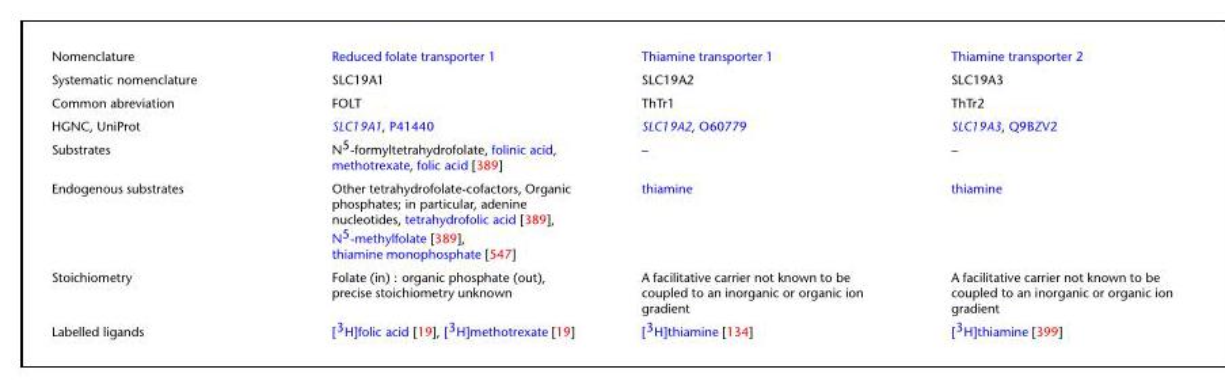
<table><tbody><tr><td>Nomenclature</td><td>Reduced folate transporter 1</td><td>Thiamine transporter 1</td><td>Thiamine transporter 2</td></tr><tr><td>Systematic nomenclature</td><td>SLC19A1</td><td>SLC19A2</td><td>SLC19A3</td></tr><tr><td>Common abreviation</td><td>FOLT</td><td>ThTr1</td><td>ThTr2</td></tr><tr><td>HGNC, UniProt</td><td>SLC19A1, P41440</td><td>SLC19A2, O60779</td><td>SLC19A3, Q9BZV2</td></tr><tr><td>Substrates</td><td>N<sup>5</sup>-formyltetrahydrofolate, folinic acid, methotrexate, folic acid [389]</td><td>–</td><td>–</td></tr><tr><td>Endogenous substrates</td><td>Other tetrahydrofolate-cofactors, Organic phosphates; in particular, adenine nucleotides, tetrahydrofolic acid [389], N<sup>5</sup>-methylfolate [389], thiamine monophosphate [547]</td><td>thiamine</td><td>thiamine</td></tr><tr><td>Stoichiometry</td><td>Folate (in) : organic phosphate (out), precise stoichiometry unknown</td><td>A facilitative carrier not known to be coupled to an inorganic or organic ion gradient</td><td>A facilitative carrier not known to be coupled to an inorganic or organic ion gradient</td></tr><tr><td>Labelled ligands</td><td>[<sup>3</sup>H]folic acid [19], [<sup>3</sup>H]methotrexate [19]</td><td>[<sup>3</sup>H]thiamine [134]</td><td>[<sup>3</sup>H]thiamine [399]</td></tr></tbody></table>